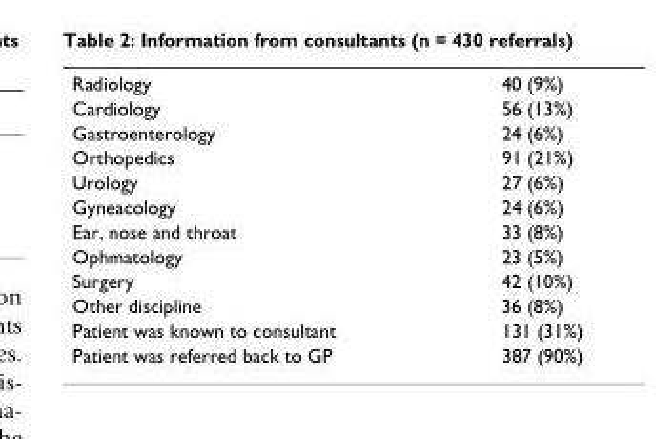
<table><tbody><tr><td>Radiology</td><td>40 (9%)</td></tr><tr><td>Cardiology</td><td>56 (13%)</td></tr><tr><td>Gastroenterology</td><td>24 (6%)</td></tr><tr><td>Orthopedics</td><td>91 (21%)</td></tr><tr><td>Urology</td><td>27 (6%)</td></tr><tr><td>Gyneacology</td><td>24 (6%)</td></tr><tr><td>Ear, nose and throat</td><td>33 (8%)</td></tr><tr><td>Ophmatology</td><td>23 (5%)</td></tr><tr><td>Surgery</td><td>42 (10%)</td></tr><tr><td>Other discipline</td><td>36 (8%)</td></tr><tr><td>Patient was known to consultant</td><td>131 (31%)</td></tr><tr><td>Patient was referred back to GP</td><td>387 (90%)</td></tr></tbody></table>